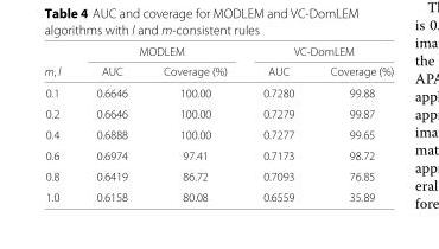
<table><thead><tr><td rowspan="2">m, l</td><td colspan="2">MODLEM</td><td colspan="2">VC-DomLEM</td></tr><tr><td>AUC</td><td>Coverage (%)</td><td>AUC</td><td>Coverage (%)</td></tr></thead><tbody><tr><td>0.1</td><td>0.6646</td><td>100.00</td><td>0.7280</td><td>99.88</td></tr><tr><td>0.2</td><td>0.6646</td><td>100.00</td><td>0.7279</td><td>99.87</td></tr><tr><td>0.4</td><td>0.6888</td><td>100.00</td><td>0.7277</td><td>99.65</td></tr><tr><td>0.6</td><td>0.6974</td><td>97.41</td><td>0.7173</td><td>98.72</td></tr><tr><td>0.8</td><td>0.6419</td><td>86.72</td><td>0.7093</td><td>76.85</td></tr><tr><td>1.0</td><td>0.6158</td><td>80.08</td><td>0.6559</td><td>35.89</td></tr></tbody></table>